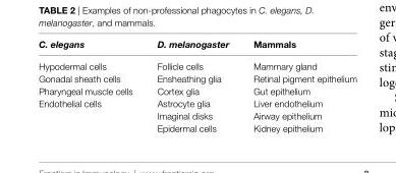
<table><thead><tr><td>C. elegans</td><td>D. melanogaster</td><td>Mammals</td></tr></thead><tbody><tr><td>Hypodermal cells Gonadal sheath cells Pharyngeal muscle cells Endothelial cells</td><td>Follicle cells Ensheathing glia Cortex glia Astrocyte glia Imaginal disks Epidermal cells</td><td>Mammary gland Retinal pigment epithelium Gut epithelium Liver endothelium Airway epithelium Kidney epithelium</td></tr></tbody></table>